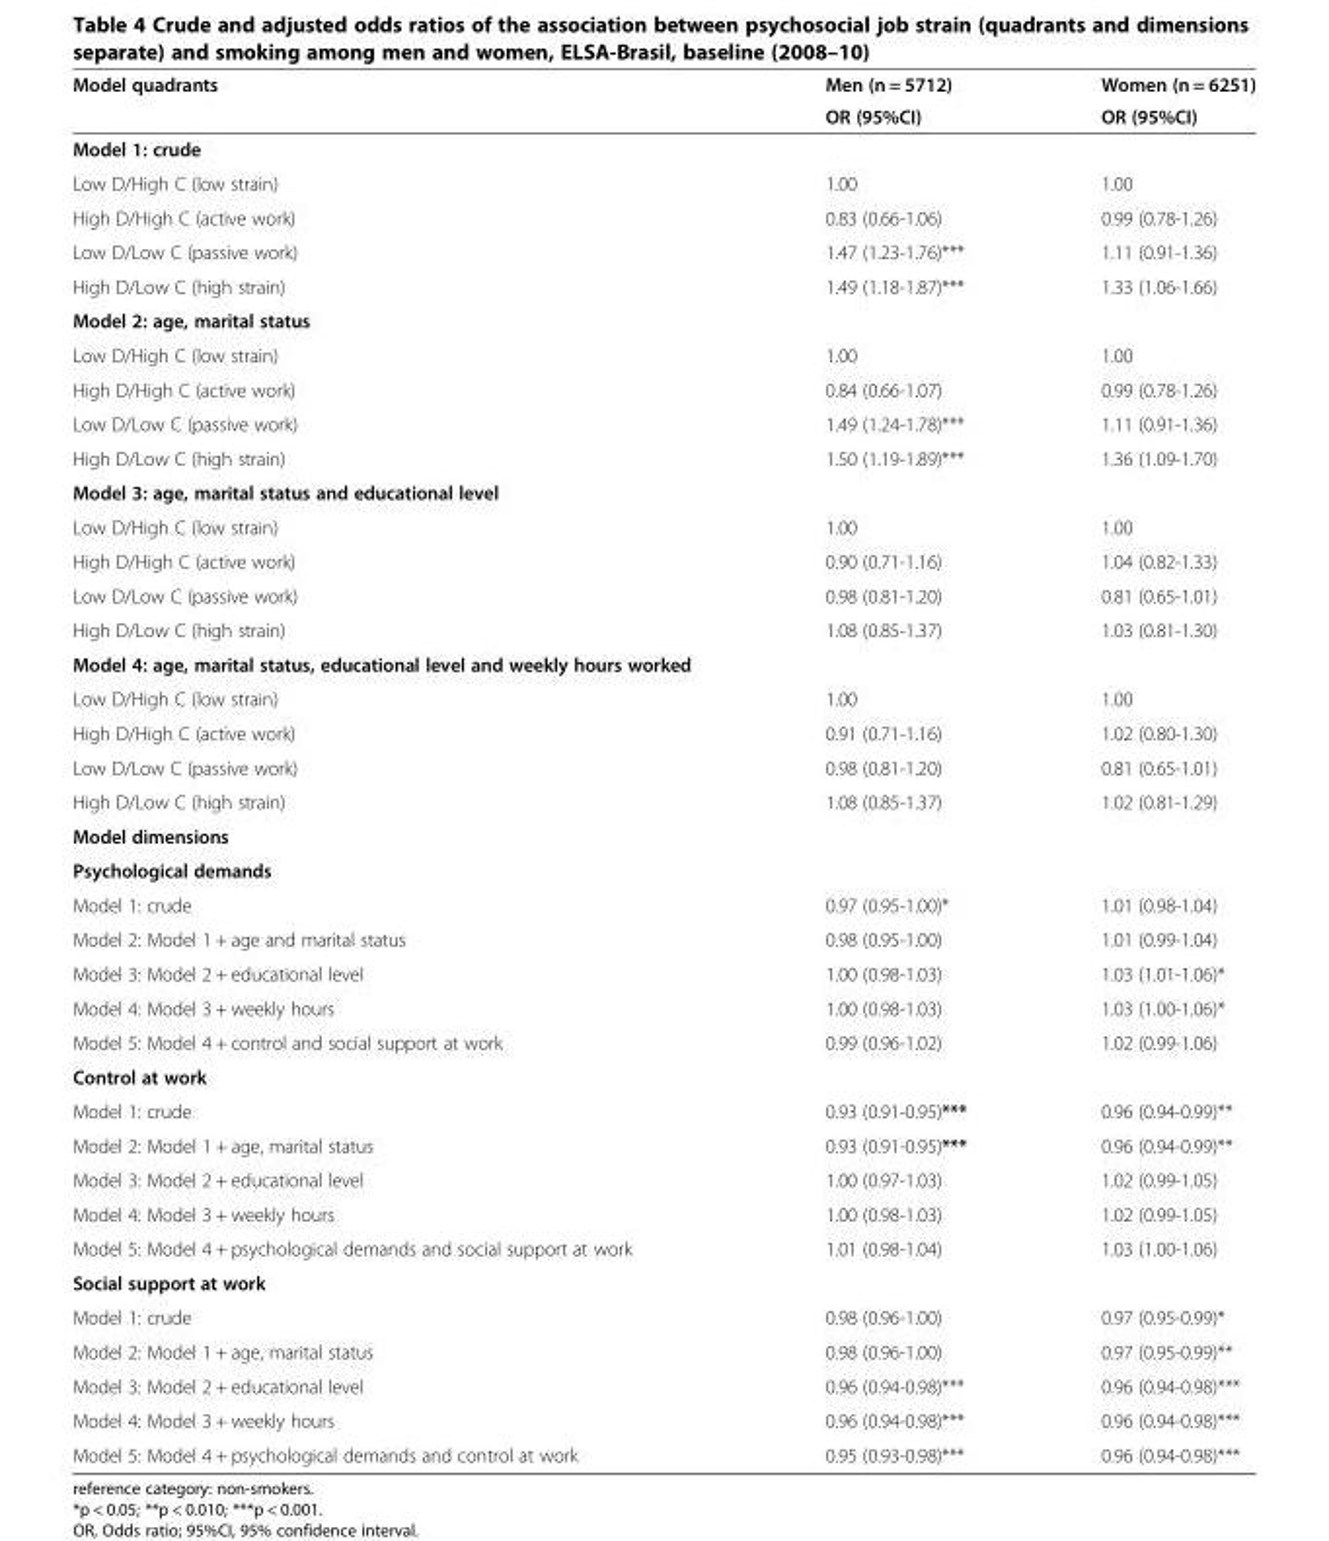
<table><thead><tr><td rowspan="2">Model quadrants</td><td rowspan="2">Men (n = 5712) OR (95%CI)</td><td rowspan="2">Women (n = 6251) OR (95%CI)</td></tr><tr></tr></thead><tbody><tr><td colspan="3">Model 1: crude</td></tr><tr><td>Low D/High C (low strain)</td><td>1.00</td><td>1.00</td></tr><tr><td>High D/High C (active work)</td><td>0.83 (0.66-1.06)</td><td>0.99 (0.78-1.26)</td></tr><tr><td>Low D/Low C (passive work)</td><td>1.47 (1.23-1.76)***</td><td>1.11 (0.91-1.36)</td></tr><tr><td>High D/Low C (high strain)</td><td>1.49 (1.18-1.87)***</td><td>1.33 (1.06-1.66)</td></tr><tr><td colspan="3">Model 2: age, marital status</td></tr><tr><td>Low D/High C (low strain)</td><td>1.00</td><td>1.00</td></tr><tr><td>High D/High C (active work)</td><td>0.84 (0.66-1.07)</td><td>0.99 (0.78-1.26)</td></tr><tr><td>Low D/Low C (passive work)</td><td>1.49 (1.24-1.78)***</td><td>1.11 (0.91-1.36)</td></tr><tr><td>High D/Low C (high strain)</td><td>1.50 (1.19-1.89)***</td><td>1.36 (1.09-1.70)</td></tr><tr><td colspan="3">Model 3: age, marital status and educational level</td></tr><tr><td>Low D/High C (low strain)</td><td>1.00</td><td>1.00</td></tr><tr><td>High D/High C (active work)</td><td>0.90 (0.71-1.16)</td><td>1.04 (0.82-1.33)</td></tr><tr><td>Low D/Low C (passive work)</td><td>0.98 (0.81-1.20)</td><td>0.81 (0.65-1.01)</td></tr><tr><td>High D/Low C (high strain)</td><td>1.08 (0.85-1.37)</td><td>1.03 (0.81-1.30)</td></tr><tr><td colspan="3">Model 4: age, marital status, educational level and weekly hours worked</td></tr><tr><td>Low D/High C (low strain)</td><td>1.00</td><td>1.00</td></tr><tr><td>High D/High C (active work)</td><td>0.91 (0.71-1.16)</td><td>1.02 (0.80-1.30)</td></tr><tr><td>Low D/Low C (passive work)</td><td>0.98 (0.81-1.20)</td><td>0.81 (0.65-1.01)</td></tr><tr><td>High D/Low C (high strain)</td><td>1.08 (0.85-1.37)</td><td>1.02 (0.81-1.29)</td></tr><tr><td colspan="3">Model dimensions</td></tr><tr><td colspan="3">Psychological demands</td></tr><tr><td>Model 1: crude</td><td>0.97 (0.95-1.00)*</td><td>1.01 (0.98-1.04)</td></tr><tr><td>Model 2: Model 1 + age and marital status</td><td>0.98 (0.95-1.00)</td><td>1.01 (0.99-1.04)</td></tr><tr><td>Model 3: Model 2 + educational level</td><td>1.00 (0.98-1.03)</td><td>1.03 (1.01-1.06)*</td></tr><tr><td>Model 4: Model 3 + weekly hours</td><td>1.00 (0.98-1.03)</td><td>1.03 (1.00-1.06)*</td></tr><tr><td>Model 5: Model 4 + control and social support at work</td><td>0.99 (0.96-1.02)</td><td>1.02 (0.99-1.06)</td></tr><tr><td colspan="3">Control at work</td></tr><tr><td>Model 1: crude</td><td>0.93 (0.91-0.95)***</td><td>0.96 (0.94-0.99)**</td></tr><tr><td>Model 2: Model 1 + age, marital status</td><td>0.93 (0.91-0.95)***</td><td>0.96 (0.94-0.99)**</td></tr><tr><td>Model 3: Model 2 + educational level</td><td>1.00 (0.97-1.03)</td><td>1.02 (0.99-1.05)</td></tr><tr><td>Model 4: Model 3 + weekly hours</td><td>1.00 (0.98-1.03)</td><td>1.02 (0.99-1.05)</td></tr><tr><td>Model 5: Model 4 + psychological demands and social support at work</td><td>1.01 (0.98-1.04)</td><td>1.03 (1.00-1.06)</td></tr><tr><td colspan="3">Social support at work</td></tr><tr><td>Model 1: crude</td><td>0.98 (0.96-1.00)</td><td>0.97 (0.95-0.99)*</td></tr><tr><td>Model 2: Model 1 + age, marital status</td><td>0.98 (0.96-1.00)</td><td>0.97 (0.95-0.99)**</td></tr><tr><td>Model 3: Model 2 + educational level</td><td>0.96 (0.94-0.98)***</td><td>0.96 (0.94-0.98)***</td></tr><tr><td>Model 4: Model 3 + weekly hours</td><td>0.96 (0.94-0.98)***</td><td>0.96 (0.94-0.98)***</td></tr><tr><td>Model 5: Model 4 + psychological demands and control at work</td><td>0.95 (0.93-0.98)***</td><td>0.96 (0.94-0.98)***</td></tr></tbody></table>